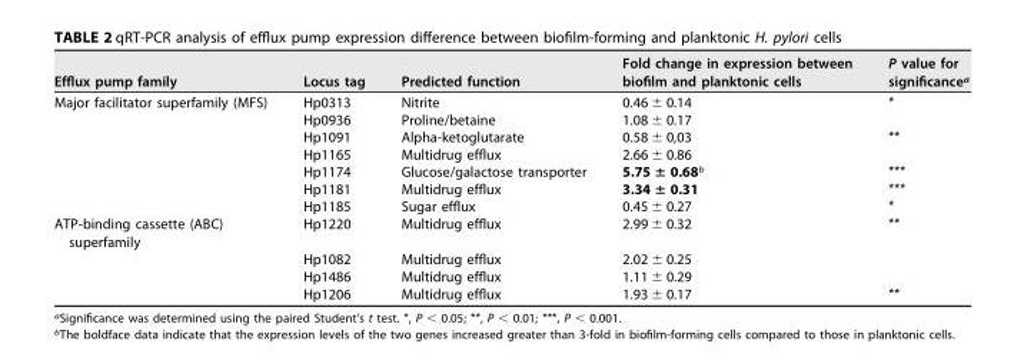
<table><thead><tr><td>Efflux pump family</td><td>Locus tag</td><td>Predicted function</td><td>Fold change in expression between biofilm and planktonic cells</td><td>P value for significance<sup>a</sup></td></tr></thead><tbody><tr><td rowspan="7">Major facilitator superfamily (MFS)</td><td>Hp0313</td><td>Nitrite</td><td>0.46 ± 0.14</td><td>*</td></tr><tr><td>Hp0936</td><td>Proline/betaine</td><td>1.08 ± 0.17</td><td></td></tr><tr><td>Hp1091</td><td>Alpha-ketoglutarate</td><td>0.58 ± 0,03</td><td>**</td></tr><tr><td>Hp1165</td><td>Multidrug efflux</td><td>2.66 ± 0.86</td><td></td></tr><tr><td>Hp1174</td><td>Glucose/galactose transporter</td><td>5.75 ± 0.68<sup>b</sup></td><td>***</td></tr><tr><td>Hp1181</td><td>Multidrug efflux</td><td>3.34 ± 0.31</td><td>***</td></tr><tr><td>Hp1185</td><td>Sugar efflux</td><td>0.45 ± 0.27</td><td>*</td></tr><tr><td rowspan="4">ATP-binding cassette (ABC) superfamily</td><td>Hp1220</td><td>Multidrug efflux</td><td>2.99 ± 0.32</td><td>**</td></tr><tr><td>Hp1082</td><td>Multidrug efflux</td><td>2.02 ± 0.25</td><td></td></tr><tr><td>Hp1486</td><td>Multidrug efflux</td><td>1.11 ± 0.29</td><td></td></tr><tr><td>Hp1206</td><td>Multidrug efflux</td><td>1.93 ± 0.17</td><td>**</td></tr></tbody></table>